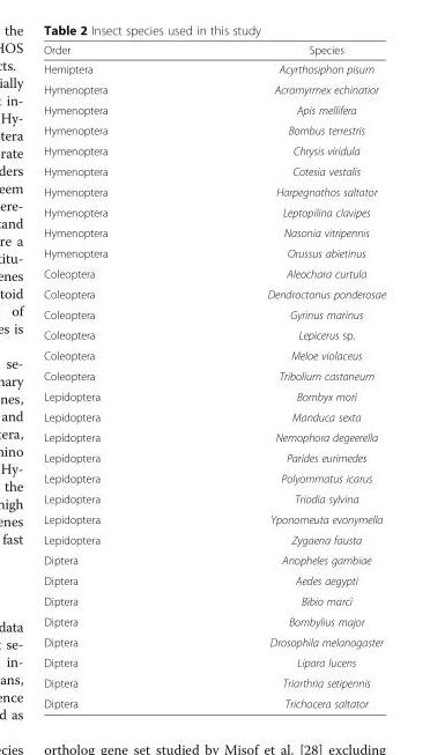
<table><thead><tr><td>Order</td><td>Species</td></tr></thead><tbody><tr><td>Hemiptera</td><td>Acyrthosiphon pisum</td></tr><tr><td>Hymenoptera</td><td>Acromyrmex echinatior</td></tr><tr><td>Hymenoptera</td><td>Apis mellifera</td></tr><tr><td>Hymenoptera</td><td>Bombus terrestris</td></tr><tr><td>Hymenoptera</td><td>Chrysis viridula</td></tr><tr><td>Hymenoptera</td><td>Cotesia vestalis</td></tr><tr><td>Hymenoptera</td><td>Harpegnathos saltator</td></tr><tr><td>Hymenoptera</td><td>Leptopilina clavipes</td></tr><tr><td>Hymenoptera</td><td>Nasonia vitripennis</td></tr><tr><td>Hymenoptera</td><td>Orussus abietinus</td></tr><tr><td>Coleoptera</td><td>Aleochara curtula</td></tr><tr><td>Coleoptera</td><td>Dendroctonus ponderosae</td></tr><tr><td>Coleoptera</td><td>Gyrinus marinus</td></tr><tr><td>Coleoptera</td><td>Lepicerus sp.</td></tr><tr><td>Coleoptera</td><td>Meloe violaceus</td></tr><tr><td>Coleoptera</td><td>Tribolium castaneum</td></tr><tr><td>Lepidoptera</td><td>Bombyx mori</td></tr><tr><td>Lepidoptera</td><td>Manduca sexta</td></tr><tr><td>Lepidoptera</td><td>Nemophora degeerella</td></tr><tr><td>Lepidoptera</td><td>Parides eurimedes</td></tr><tr><td>Lepidoptera</td><td>Polyommatus icarus</td></tr><tr><td>Lepidoptera</td><td>Triodia sylvina</td></tr><tr><td>Lepidoptera</td><td>Yponomeuta evonymella</td></tr><tr><td>Lepidoptera</td><td>Zygaena fausta</td></tr><tr><td>Diptera</td><td>Anopheles gambiae</td></tr><tr><td>Diptera</td><td>Aedes aegypti</td></tr><tr><td>Diptera</td><td>Bibio marci</td></tr><tr><td>Diptera</td><td>Bombylius major</td></tr><tr><td>Diptera</td><td>Drosophila melanogaster</td></tr><tr><td>Diptera</td><td>Lipara lucens</td></tr><tr><td>Diptera</td><td>Triarthria setipennis</td></tr><tr><td>Diptera</td><td>Trichocera saltator</td></tr></tbody></table>